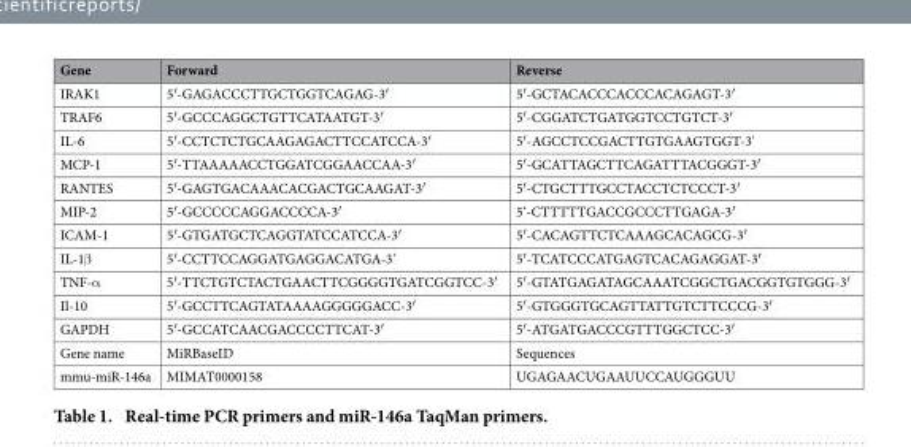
<table><thead><tr><td>Gene</td><td>Forward</td><td>Reverse</td></tr></thead><tbody><tr><td>IRAK1</td><td>5′ -GAGACCCTTGCTGGTCAGAG-3′</td><td>5′ -GCTACACCCACCCACAGAGT-3′</td></tr><tr><td>TRAF6</td><td>5′ -GCCCAGGCTGTTCATAATGT-3′</td><td>5′ -CGGATCTGATGGTCCTGTCT-3′</td></tr><tr><td>IL-6</td><td>5′ -CCTCTCTGCAAGAGACTTCCATCCA-3′</td><td>5′ -AGCCTCCGACTTGTGAAGTGGT-3&#x27;</td></tr><tr><td>MCP-1</td><td>5′ -TTAAAAACCTGGATCGGAACCAA-3′</td><td>5′ -GCATTAGCTTCAGATTTACGGGT-3′</td></tr><tr><td>RANTES</td><td>5′ -GAGTGACAAACACGACTGCAAGAT-3′</td><td>5′ -CTGCTTTGCCTACCTCTCCCT-3′</td></tr><tr><td>MIP-2</td><td>5′ -GCCCCCAGGACCCCA-3′</td><td>5‘-CTTTTTGACCGCCCTTGAGA-3′</td></tr><tr><td>ICAM-1</td><td>5′ -GTGATGCTCAGGTATCCATCCA-3′</td><td>5′ -CACAGTTCTCAAAGCACAGCG-3′</td></tr><tr><td>IL-1β</td><td>5′ -CCTTCCAGGATGAGGACATGA-3&#x27;</td><td>5′ -TCATCCCATGAGTCACAGAGGAT-3′</td></tr><tr><td>TNF-α</td><td>5′ -TTCTGTCTACTGAACTTCGGGGTGATCGGTCC-3′</td><td>5′ -GTATGAGATAGCAAATCGGCTGACGGTGTGGG-3′</td></tr><tr><td>Il-10</td><td>5′ -GCCTTCAGTATAAAAGGGGGACC-3′</td><td>5′ -GTGGGTGCAGTTATTGTCTTCCCG-3′</td></tr><tr><td>GAPDH</td><td>5′ -GCCATCAACGACCCCTTCAT-3′</td><td>5′ -ATGATGACCCGTTTGGCTCC-3′</td></tr><tr><td>Gene name</td><td>MiRBaseID</td><td>Sequences</td></tr><tr><td>mmu-miR-146a</td><td>MIMAT0000158</td><td>UGAGAACUGAAUUCCAUGGGUU</td></tr></tbody></table>